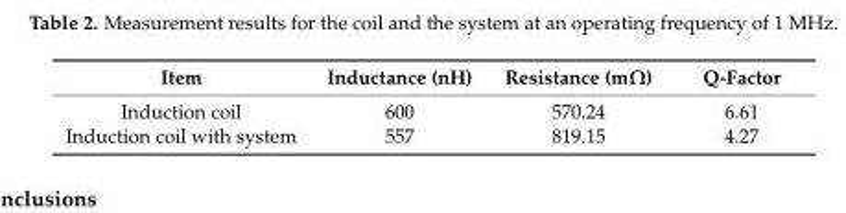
<table><thead><tr><td>Item</td><td>Inductance (nH)</td><td>Resistance (mΩ)</td><td>Q-Factor</td></tr></thead><tbody><tr><td>Induction coil</td><td>600</td><td>570.24</td><td>6.61</td></tr><tr><td>Induction coil with system</td><td>557</td><td>819.15</td><td>4.27</td></tr></tbody></table>